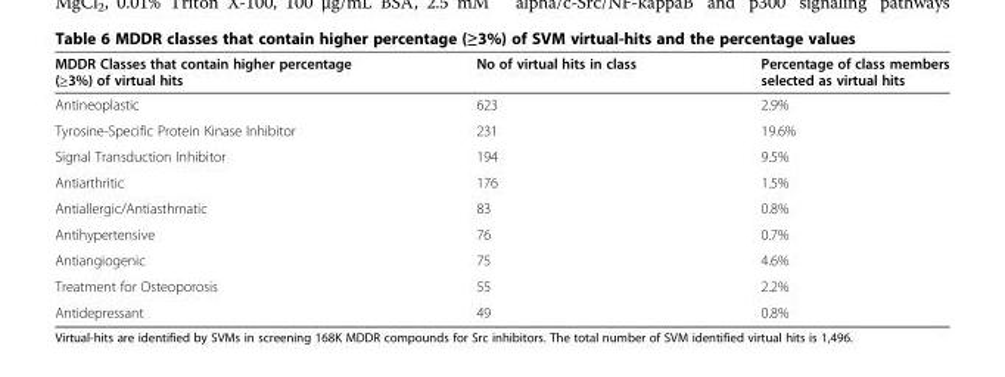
<table><thead><tr><td>MDDR Classes that contain higher percentage (≥3%) of virtual hits</td><td>No of virtual hits in class</td><td>Percentage of class members selected as virtual hits</td></tr></thead><tbody><tr><td>Antineoplastic</td><td>623</td><td>2.9%</td></tr><tr><td>Tyrosine-Specific Protein Kinase Inhibitor</td><td>231</td><td>19.6%</td></tr><tr><td>Signal Transduction Inhibitor</td><td>194</td><td>9.5%</td></tr><tr><td>Antiarthritic</td><td>176</td><td>1.5%</td></tr><tr><td>Antiallergic/Antiasthmatic</td><td>83</td><td>0.8%</td></tr><tr><td>Antihypertensive</td><td>76</td><td>0.7%</td></tr><tr><td>Antiangiogenic</td><td>75</td><td>4.6%</td></tr><tr><td>Treatment for Osteoporosis</td><td>55</td><td>2.2%</td></tr><tr><td>Antidepressant</td><td>49</td><td>0.8%</td></tr></tbody></table>